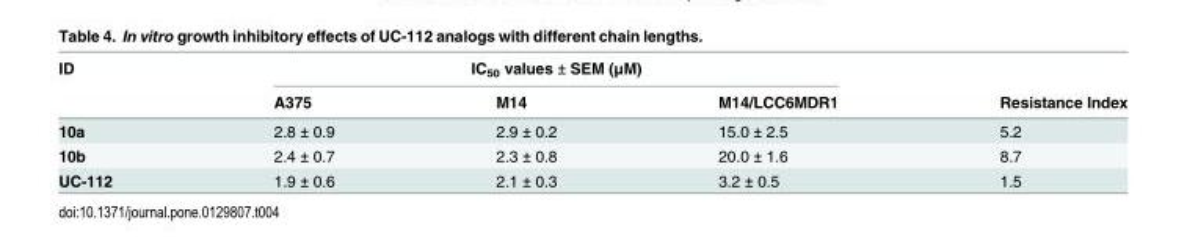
<table><thead><tr><td rowspan="2">ID</td><td colspan="3">IC<sub>50</sub> values ± SEM (μM)</td><td rowspan="2">Resistance Index</td></tr><tr><td>A375</td><td>M14</td><td>M14/LCC6MDR1</td></tr></thead><tbody><tr><td>10a</td><td>2.8 ± 0.9</td><td>2.9 ± 0.2</td><td>15.0 ± 2.5</td><td>5.2</td></tr><tr><td>10b</td><td>2.4 ± 0.7</td><td>2.3 ± 0.8</td><td>20.0 ± 1.6</td><td>8.7</td></tr><tr><td>UC-112</td><td>1.9 ± 0.6</td><td>2.1 ± 0.3</td><td>3.2 ± 0.5</td><td>1.5</td></tr></tbody></table>